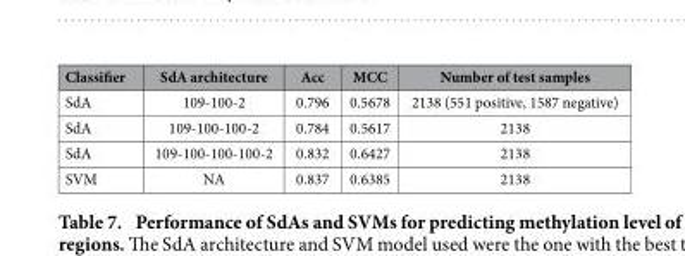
<table><thead><tr><td>Classifier</td><td>SdA architecture</td><td>Acc</td><td>MCC</td><td>Number of test samples</td></tr></thead><tbody><tr><td>SdA</td><td>109-100-2</td><td>0.796</td><td>0.5678</td><td>2138 (551 positive, 1587 negative)</td></tr><tr><td>SdA</td><td>109-100-100-2</td><td>0.784</td><td>0.5617</td><td>2138</td></tr><tr><td>SdA</td><td>109-100-100-100-2</td><td>0.832</td><td>0.6427</td><td>2138</td></tr><tr><td>SVM</td><td>NA</td><td>0.837</td><td>0.6385</td><td>2138</td></tr></tbody></table>